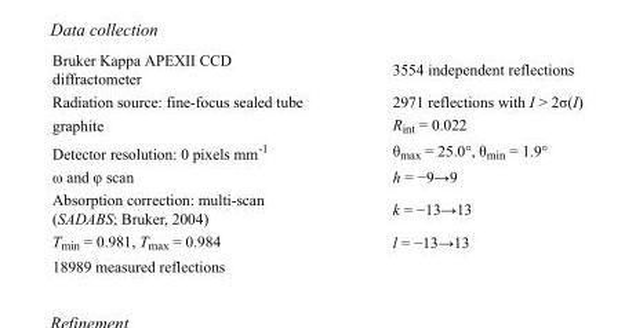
<table><tbody><tr><td>Bruker Kappa APEXII CCD diffractometer</td><td>3554 independent reflections</td></tr><tr><td>Radiation source: fine-focus sealed tube</td><td>2971 reflections with I &gt; 2σ(I)</td></tr><tr><td>graphite</td><td>R<sub>int</sub> = 0.022</td></tr><tr><td>Detector resolution: 0 pixels mm<sup>-1</sup></td><td>θ<sub>max</sub> = 25.0°, θ<sub>min</sub> = 1.9°</td></tr><tr><td>ω and φ scan</td><td>h = −9→9</td></tr><tr><td>Absorption correction: multi-scan (SADABS; Bruker, 2004)</td><td>k = −13→13</td></tr><tr><td>T<sub>min</sub> = 0.981, T<sub>max</sub> = 0.984</td><td>l = −13→13</td></tr><tr><td>18989 measured reflections</td><td></td></tr></tbody></table>